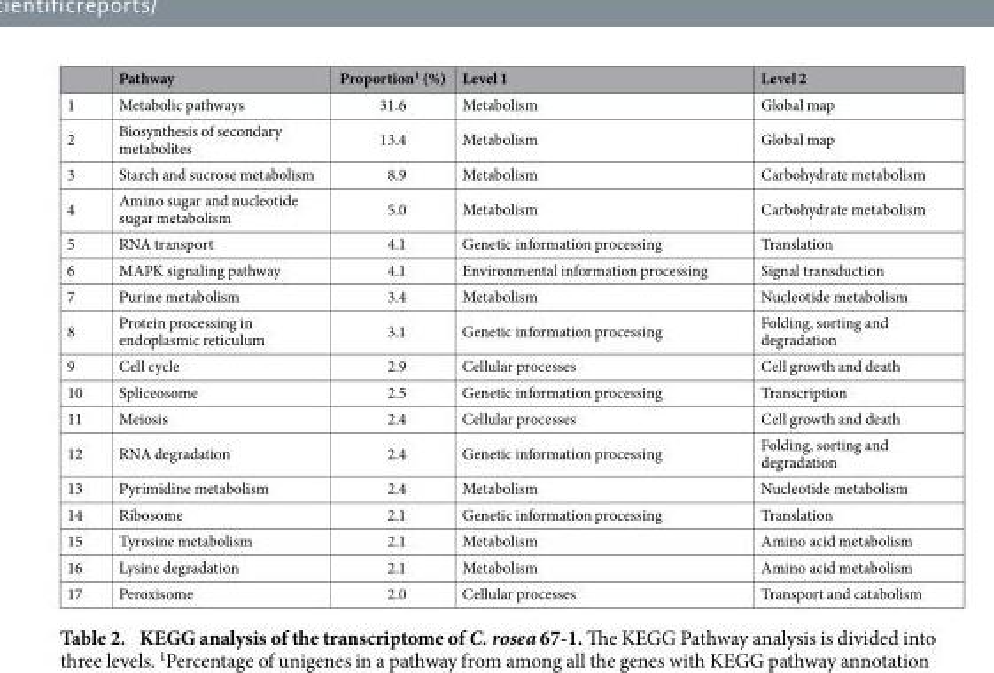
<table><thead><tr><td></td><td>Pathway</td><td>Proportion<sup>1</sup> (%)</td><td>Level 1</td><td>Level 2</td></tr></thead><tbody><tr><td>1</td><td>Metabolic pathways</td><td>31.6</td><td>Metabolism</td><td>Global map</td></tr><tr><td>2</td><td>Biosynthesis of secondary metabolites</td><td>13.4</td><td>Metabolism</td><td>Global map</td></tr><tr><td>3</td><td>Starch and sucrose metabolism</td><td>8.9</td><td>Metabolism</td><td>Carbohydrate metabolism</td></tr><tr><td>4</td><td>Amino sugar and nucleotide sugar metabolism</td><td>5.0</td><td>Metabolism</td><td>Carbohydrate metabolism</td></tr><tr><td>5</td><td>RNA transport</td><td>4.1</td><td>Genetic information processing</td><td>Translation</td></tr><tr><td>6</td><td>MAPK signaling pathway</td><td>4.1</td><td>Environmental information processing</td><td>Signal transduction</td></tr><tr><td>7</td><td>Purine metabolism</td><td>3.4</td><td>Metabolism</td><td>Nucleotide metabolism</td></tr><tr><td>8</td><td>Protein processing in endoplasmic reticulum</td><td>3.1</td><td>Genetic information processing</td><td>Folding, sorting and degradation</td></tr><tr><td>9</td><td>Cell cycle</td><td>2.9</td><td>Cellular processes</td><td>Cell growth and death</td></tr><tr><td>10</td><td>Spliceosome</td><td>2.5</td><td>Genetic information processing</td><td>Transcription</td></tr><tr><td>11</td><td>Meiosis</td><td>2.4</td><td>Cellular processes</td><td>Cell growth and death</td></tr><tr><td>12</td><td>RNA degradation</td><td>2.4</td><td>Genetic information processing</td><td>Folding, sorting and degradation</td></tr><tr><td>13</td><td>Pyrimidine metabolism</td><td>2.4</td><td>Metabolism</td><td>Nucleotide metabolism</td></tr><tr><td>14</td><td>Ribosome</td><td>2.1</td><td>Genetic information processing</td><td>Translation</td></tr><tr><td>15</td><td>Tyrosine metabolism</td><td>2.1</td><td>Metabolism</td><td>Amino acid metabolism</td></tr><tr><td>16</td><td>Lysine degradation</td><td>2.1</td><td>Metabolism</td><td>Amino acid metabolism</td></tr><tr><td>17</td><td>Peroxisome</td><td>2.0</td><td>Cellular processes</td><td>Transport and catabolism</td></tr></tbody></table>